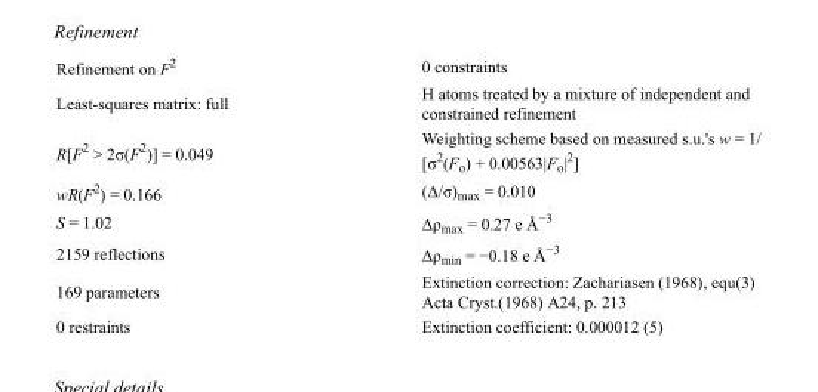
<table><tbody><tr><td>Refinement on F<sup>2</sup></td><td>0 constraints</td></tr><tr><td>Least-squares matrix: full</td><td>H atoms treated by a mixture of independent and constrained refinement</td></tr><tr><td>R[F<sup>2</sup> &gt; 2σ(F<sup>2</sup>)] = 0.049</td><td>Weighting scheme based on measured s.u.&#x27;s w = 1/ [σ<sup>2</sup>(F<sub>o</sub>) + 0.00563|F<sub>o</sub>|<sup>2</sup>]</td></tr><tr><td>wR(F<sup>2</sup>) = 0.166</td><td>(Δ/σ)<sub>max</sub> = 0.010</td></tr><tr><td>S = 1.02</td><td>Δρ<sub>max</sub> = 0.27 e Å<sup>−3</sup></td></tr><tr><td>2159 reflections</td><td>Δρ<sub>min</sub> = −0.18 e Å<sup>−3</sup></td></tr><tr><td>169 parameters</td><td>Extinction correction: Zachariasen (1968), equ(3) Acta Cryst.(1968) A24, p. 213</td></tr><tr><td>0 restraints</td><td>Extinction coefficient: 0.000012 (5)</td></tr></tbody></table>